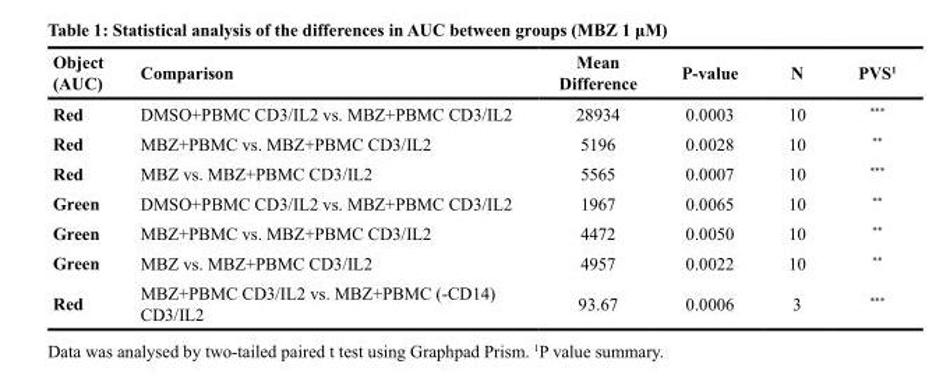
<table><thead><tr><td>Object (AUC)</td><td>Comparison</td><td>Mean Difference</td><td>P-value</td><td>N</td><td>PVS<sup>1</sup></td></tr></thead><tbody><tr><td>Red</td><td>DMSO+PBMC CD3/IL2 vs. MBZ+PBMC CD3/IL2</td><td>28934</td><td>0.0003</td><td>10</td><td>***</td></tr><tr><td>Red</td><td>MBZ+PBMC vs. MBZ+PBMC CD3/IL2</td><td>5196</td><td>0.0028</td><td>10</td><td>**</td></tr><tr><td>Red</td><td>MBZ vs. MBZ+PBMC CD3/IL2</td><td>5565</td><td>0.0007</td><td>10</td><td>***</td></tr><tr><td>Green</td><td>DMSO+PBMC CD3/IL2 vs. MBZ+PBMC CD3/IL2</td><td>1967</td><td>0.0065</td><td>10</td><td>**</td></tr><tr><td>Green</td><td>MBZ+PBMC vs. MBZ+PBMC CD3/IL2</td><td>4472</td><td>0.0050</td><td>10</td><td>**</td></tr><tr><td>Green</td><td>MBZ vs. MBZ+PBMC CD3/IL2</td><td>4957</td><td>0.0022</td><td>10</td><td>**</td></tr><tr><td>Red</td><td>MBZ+PBMC CD3/IL2 vs. MBZ+PBMC (-CD14) CD3/IL2</td><td>93.67</td><td>0.0006</td><td>3</td><td>***</td></tr></tbody></table>